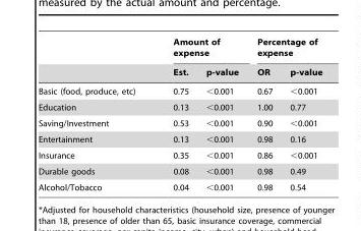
<table><thead><tr><td rowspan="2"></td><td colspan="2">Amount of expense</td><td colspan="2">Percentage of expense</td></tr><tr><td>Est.</td><td>p-value</td><td>OR</td><td>p-value</td></tr></thead><tbody><tr><td>Basic (food, produce, etc)</td><td>0.75</td><td>&lt;0.001</td><td>0.67</td><td>&lt;0.001</td></tr><tr><td>Education</td><td>0.13</td><td>&lt;0.001</td><td>1.00</td><td>0.77</td></tr><tr><td>Saving/Investment</td><td>0.53</td><td>&lt;0.001</td><td>0.90</td><td>&lt;0.001</td></tr><tr><td>Entertainment</td><td>0.13</td><td>&lt;0.001</td><td>0.98</td><td>0.16</td></tr><tr><td>Insurance</td><td>0.35</td><td>&lt;0.001</td><td>0.86</td><td>&lt;0.001</td></tr><tr><td>Durable goods</td><td>0.08</td><td>&lt;0.001</td><td>0.98</td><td>0.49</td></tr><tr><td>Alcohol/Tobacco</td><td>0.04</td><td>&lt;0.001</td><td>0.98</td><td>0.54</td></tr></tbody></table>